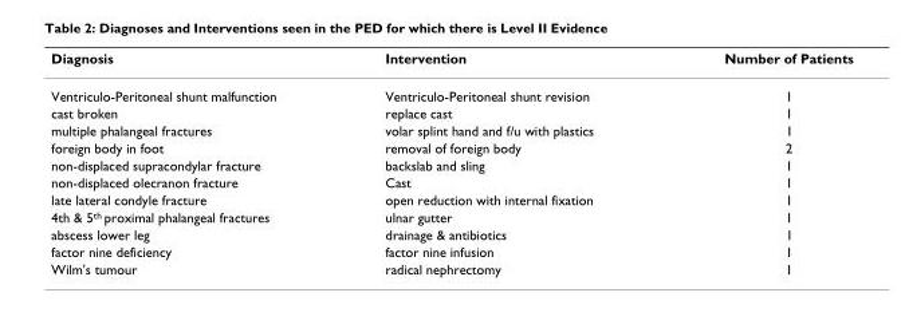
<table><thead><tr><td>Diagnosis</td><td>Intervention</td><td>Number of Patients</td></tr></thead><tbody><tr><td>Ventriculo-Peritoneal shunt malfunction</td><td>Ventriculo-Peritoneal shunt revision</td><td>1</td></tr><tr><td>cast broken</td><td>replace cast</td><td>1</td></tr><tr><td>multiple phalangeal fractures</td><td>volar splint hand and f/u with plastics</td><td>1</td></tr><tr><td>foreign body in foot</td><td>removal of foreign body</td><td>2</td></tr><tr><td>non-displaced supracondylar fracture</td><td>backslab and sling</td><td>1</td></tr><tr><td>non-displaced olecranon fracture</td><td>Cast</td><td>1</td></tr><tr><td>late lateral condyle fracture</td><td>open reduction with internal fixation</td><td>1</td></tr><tr><td>4th &amp; 5<sup>th</sup> proximal phalangeal fractures</td><td>ulnar gutter</td><td>1</td></tr><tr><td>abscess lower leg</td><td>drainage &amp; antibiotics</td><td>1</td></tr><tr><td>factor nine deficiency</td><td>factor nine infusion</td><td>1</td></tr><tr><td>Wilm&#x27;s tumour</td><td>radical nephrectomy</td><td>1</td></tr></tbody></table>